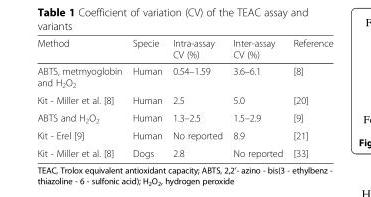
<table><thead><tr><td>Method</td><td>Specie</td><td>Intra-assay CV (%)</td><td>Inter-assay CV (%)</td><td>Reference</td></tr></thead><tbody><tr><td>ABTS, metmyoglobin and H<sub>2</sub>O<sub>2</sub></td><td>Human</td><td>0.54–1.59</td><td>3.6–6.1</td><td>[8]</td></tr><tr><td>Kit - Miller et al. [8]</td><td>Human</td><td>2.5</td><td>5.0</td><td>[20]</td></tr><tr><td>ABTS and H<sub>2</sub>O<sub>2</sub></td><td>Human</td><td>1.3–2.5</td><td>1.5–2.9</td><td>[9]</td></tr><tr><td>Kit - Erel [9]</td><td>Human</td><td>No reported</td><td>8.9</td><td>[21]</td></tr><tr><td>Kit - Miller et al. [8]</td><td>Dogs</td><td>2.8</td><td>No reported</td><td>[33]</td></tr></tbody></table>